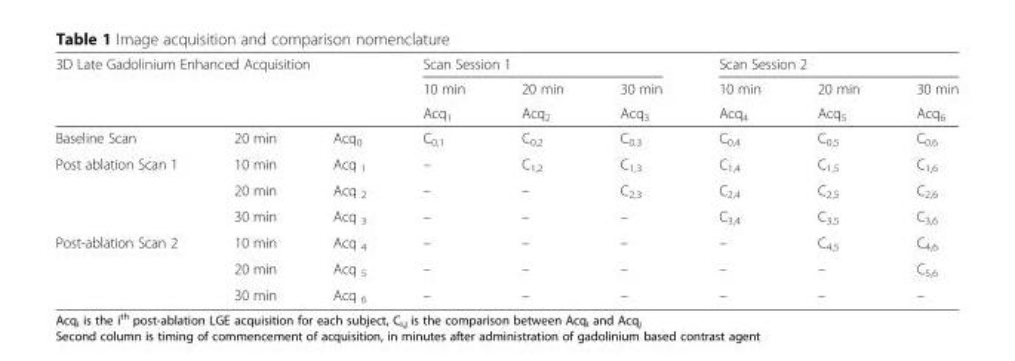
<table><thead><tr><td rowspan="3" colspan="3">3D Late Gadolinium Enhanced Acquisition</td><td colspan="3">Scan Session 1</td><td colspan="3">Scan Session 2</td></tr><tr><td rowspan="3">10 min Acq1 C0,1</td><td rowspan="3">20 min Acq2 C0,2</td><td rowspan="3">30 min Acq3 C0,3</td><td rowspan="3">10 min Acq4 C0,4</td><td rowspan="3">20 min Acq5 C0,5</td><td rowspan="3">30 min Acq6 C0,6</td></tr><tr></tr><tr><td>Baseline Scan</td><td>20 min</td><td>Acq<sub>0</sub></td></tr></thead><tbody><tr><td rowspan="3">Post ablation Scan 1</td><td>10 min</td><td>Acq <sub>1</sub></td><td>–</td><td>C<sub>1,2</sub></td><td>C<sub>1,3</sub></td><td>C<sub>1,4</sub></td><td>C<sub>1,5</sub></td><td>C<sub>1,6</sub></td></tr><tr><td>20 min</td><td>Acq <sub>2</sub></td><td>–</td><td>–</td><td>C<sub>2,3</sub></td><td>C<sub>2,4</sub></td><td>C<sub>2,5</sub></td><td>C<sub>2,6</sub></td></tr><tr><td>30 min</td><td>Acq <sub>3</sub></td><td>–</td><td>–</td><td>–</td><td>C<sub>3,4</sub></td><td>C<sub>3,5</sub></td><td>C<sub>3,6</sub></td></tr><tr><td rowspan="3">Post-ablation Scan 2</td><td>10 min</td><td>Acq <sub>4</sub></td><td>–</td><td>–</td><td>–</td><td>–</td><td>C<sub>4,5</sub></td><td>C<sub>4,6</sub></td></tr><tr><td>20 min</td><td>Acq <sub>5</sub></td><td>–</td><td>–</td><td>–</td><td>–</td><td>–</td><td>C<sub>5,6</sub></td></tr><tr><td>30 min</td><td>Acq <sub>6</sub></td><td>–</td><td>–</td><td>–</td><td>–</td><td>–</td><td>–</td></tr></tbody></table>